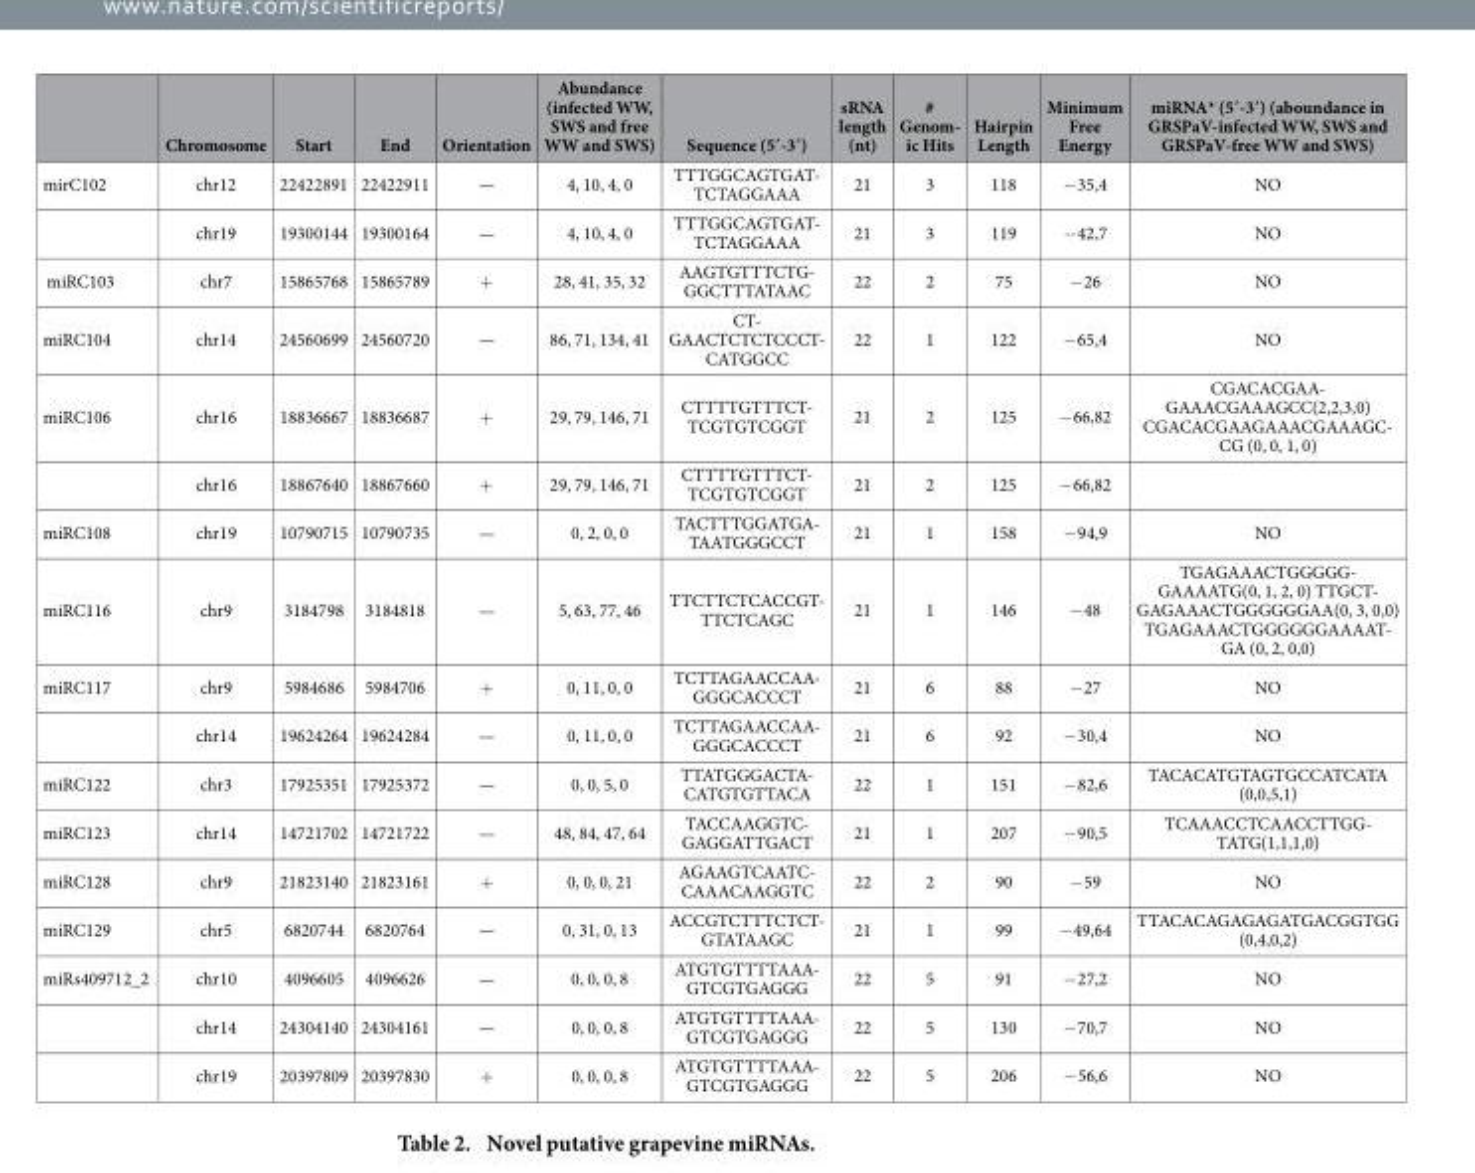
<table><thead><tr><td></td><td>Chromosome</td><td>Start</td><td>End</td><td>Orientation</td><td>Abundance (infected WW, SWS and free WW and SWS)</td><td>Sequence (5′-3′)</td><td>sRNA length (nt)</td><td># Genom- ic Hits</td><td>Hairpin Length</td><td>Minimum Free Energy</td><td>miRNA* (5′-3′) (aboundance in GRSPaV-infected WW, SWS and GRSPaV-free WW and SWS)</td></tr></thead><tbody><tr><td rowspan="2">mirC102</td><td>chr12</td><td>22422891</td><td>22422911</td><td>—</td><td>4, 10, 4, 0</td><td>TTTGGCAGTGAT- TCTAGGAAA</td><td>21</td><td>3</td><td>118</td><td>− 35,4</td><td>NO</td></tr><tr><td>chr19</td><td>19300144</td><td>19300164</td><td>—</td><td>4, 10, 4, 0</td><td>TTTGGCAGTGAT- TCTAGGAAA</td><td>21</td><td>3</td><td>119</td><td>− 42,7</td><td>NO</td></tr><tr><td>miRC103</td><td>chr7</td><td>15865768</td><td>15865789</td><td>+</td><td>28, 41, 35, 32</td><td>AAGTGTTTCTG- GGCTTTATAAC</td><td>22</td><td>2</td><td>75</td><td>− 26</td><td>NO</td></tr><tr><td>miRC104</td><td>chr14</td><td>24560699</td><td>24560720</td><td>—</td><td>86, 71, 134, 41</td><td>CT- GAACTCTCTCCCT- CATGGCC</td><td>22</td><td>1</td><td>122</td><td>− 65,4</td><td>NO</td></tr><tr><td rowspan="2">miRC106</td><td>chr16</td><td>18836667</td><td>18836687</td><td>+</td><td>29, 79, 146, 71</td><td>CTTTTGTTTCT- TCGTGTCGGT</td><td>21</td><td>2</td><td>125</td><td>− 66,82</td><td>CGACACGAA- GAAACGAAAGCC(2,2,3,0) CGACACGAAGAAACGAAAGC- CG (0, 0, 1, 0)</td></tr><tr><td>chr16</td><td>18867640</td><td>18867660</td><td>+</td><td>29, 79, 146, 71</td><td>CTTTTGTTTCT- TCGTGTCGGT</td><td>21</td><td>2</td><td>125</td><td>− 66,82</td><td></td></tr><tr><td>miRC108</td><td>chr19</td><td>10790715</td><td>10790735</td><td>—</td><td>0, 2, 0, 0</td><td>TACTTTGGATGA- TAATGGGCCT</td><td>21</td><td>1</td><td>158</td><td>− 94,9</td><td>NO</td></tr><tr><td>miRC116</td><td>chr9</td><td>3184798</td><td>3184818</td><td>—</td><td>5, 63, 77, 46</td><td>TTCTTCTCACCGT- TTCTCAGC</td><td>21</td><td>1</td><td>146</td><td>− 48</td><td>TGAGAAACTGGGGG- GAAAATG(0, 1, 2, 0) TTGCT- GAGAAACTGGGGGGAA(0, 3, 0,0) TGAGAAACTGGGGGGAAAAT- GA (0, 2, 0,0)</td></tr><tr><td rowspan="2">miRC117</td><td>chr9</td><td>5984686</td><td>5984706</td><td>+</td><td>0, 11, 0, 0</td><td>TCTTAGAACCAA- GGGCACCCT</td><td>21</td><td>6</td><td>88</td><td>− 27</td><td>NO</td></tr><tr><td>chr14</td><td>19624264</td><td>19624284</td><td>—</td><td>0, 11, 0, 0</td><td>TCTTAGAACCAA- GGGCACCCT</td><td>21</td><td>6</td><td>92</td><td>− 30,4</td><td>NO</td></tr><tr><td>miRC122</td><td>chr3</td><td>17925351</td><td>17925372</td><td>—</td><td>0, 0, 5, 0</td><td>TTATGGGACTA- CATGTGTTACA</td><td>22</td><td>1</td><td>151</td><td>− 82,6</td><td>TACACATGTAGTGCCATCATA (0,0,5,1)</td></tr><tr><td>miRC123</td><td>chr14</td><td>14721702</td><td>14721722</td><td>—</td><td>48, 84, 47, 64</td><td>TACCAAGGTC- GAGGATTGACT</td><td>21</td><td>1</td><td>207</td><td>− 90,5</td><td>TCAAACCTCAACCTTGG- TATG(1,1,1,0)</td></tr><tr><td>miRC128</td><td>chr9</td><td>21823140</td><td>21823161</td><td>+</td><td>0, 0, 0, 21</td><td>AGAAGTCAATC- CAAACAAGGTC</td><td>22</td><td>2</td><td>90</td><td>− 59</td><td>NO</td></tr><tr><td>miRC129</td><td>chr5</td><td>6820744</td><td>6820764</td><td>—</td><td>0, 31, 0, 13</td><td>ACCGTCTTTCTCT- GTATAAGC</td><td>21</td><td>1</td><td>99</td><td>− 49,64</td><td>TTACACAGAGAGATGACGGTGG (0,4,0,2)</td></tr><tr><td rowspan="3">miRs409712_2</td><td>chr10</td><td>4096605</td><td>4096626</td><td>—</td><td>0, 0, 0, 8</td><td>ATGTGTTTTAAA- GTCGTGAGGG</td><td>22</td><td>5</td><td>91</td><td>− 27,2</td><td>NO</td></tr><tr><td>chr14</td><td>24304140</td><td>24304161</td><td>—</td><td>0, 0, 0, 8</td><td>ATGTGTTTTAAA- GTCGTGAGGG</td><td>22</td><td>5</td><td>130</td><td>− 70,7</td><td>NO</td></tr><tr><td>chr19</td><td>20397809</td><td>20397830</td><td>+</td><td>0, 0, 0, 8</td><td>ATGTGTTTTAAA- GTCGTGAGGG</td><td>22</td><td>5</td><td>206</td><td>− 56,6</td><td>NO</td></tr></tbody></table>